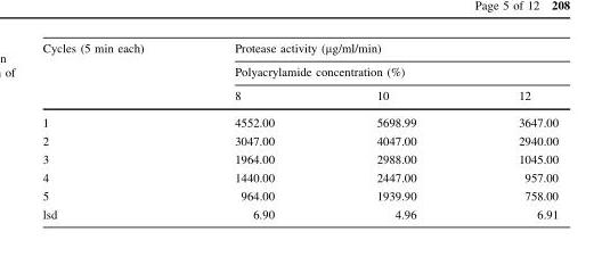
<table><thead><tr><td rowspan="3">Cycles (5 min each)</td><td rowspan="2" colspan="3">Protease activity (µg/ml/min) Polyacrylamide concentration (%)</td></tr><tr></tr><tr><td>8</td><td>10</td><td>12</td></tr></thead><tbody><tr><td>1</td><td>4552.00</td><td>5698.99</td><td>3647.00</td></tr><tr><td>2</td><td>3047.00</td><td>4047.00</td><td>2940.00</td></tr><tr><td>3</td><td>1964.00</td><td>2988.00</td><td>1045.00</td></tr><tr><td>4</td><td>1440.00</td><td>2447.00</td><td>957.00</td></tr><tr><td>5</td><td>964.00</td><td>1939.90</td><td>758.00</td></tr><tr><td>lsd</td><td>6.90</td><td>4.96</td><td>6.91</td></tr></tbody></table>